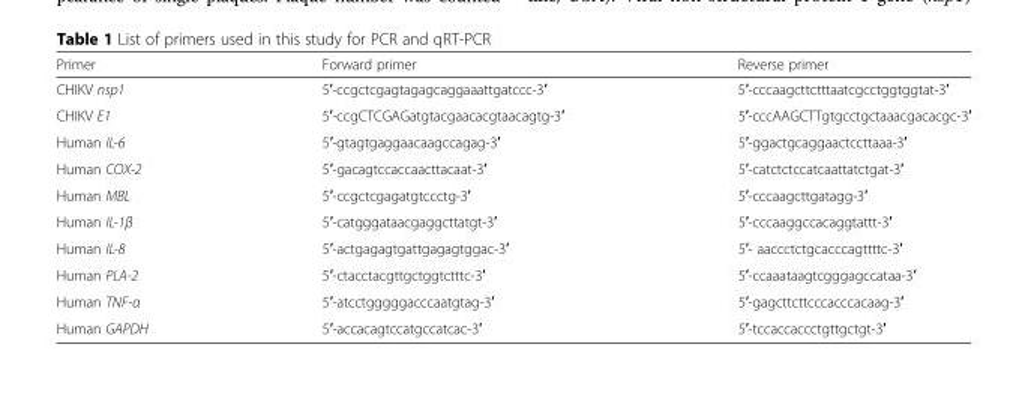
<table><thead><tr><td>Primer</td><td>Forward primer</td><td>Reverse primer</td></tr></thead><tbody><tr><td>CHIKV nsp1</td><td>5′-ccgctcgagtagagcaggaaattgatccc-3′</td><td>5′-cccaagcttctttaatcgcctggtggtat-3′</td></tr><tr><td>CHIKV E1</td><td>5′-ccgCTCGAGatgtacgaacacgtaacagtg-3′</td><td>5′-cccAAGCTTgtgcctgctaaacgacacgc-3′</td></tr><tr><td>Human IL-6</td><td>5′-gtagtgaggaacaagccagag-3′</td><td>5′-ggactgcaggaactccttaaa-3′</td></tr><tr><td>Human COX-2</td><td>5′-gacagtccaccaacttacaat-3′</td><td>5′-catctctccatcaattatctgat-3′</td></tr><tr><td>Human MBL</td><td>5′-ccgctcgagatgtccctg-3′</td><td>5′-cccaagcttgatagg-3′</td></tr><tr><td>Human IL-1β</td><td>5′-catgggataacgaggcttatgt-3′</td><td>5′-cccaaggccacaggtattt-3′</td></tr><tr><td>Human IL-8</td><td>5′-actgagagtgattgagagtggac-3′</td><td>5′- aaccctctgcacccagttttc-3′</td></tr><tr><td>Human PLA-2</td><td>5′-ctacctacgttgctggtctttc-3′</td><td>5′-ccaaataagtcgggagccataa-3′</td></tr><tr><td>Human TNF-α</td><td>5′-atcctgggggacccaatgtag-3′</td><td>5′-gagcttcttcccacccacaag-3′</td></tr><tr><td>Human GAPDH</td><td>5′-accacagtccatgccatcac-3′</td><td>5′-tccaccaccctgttgctgt-3′</td></tr></tbody></table>